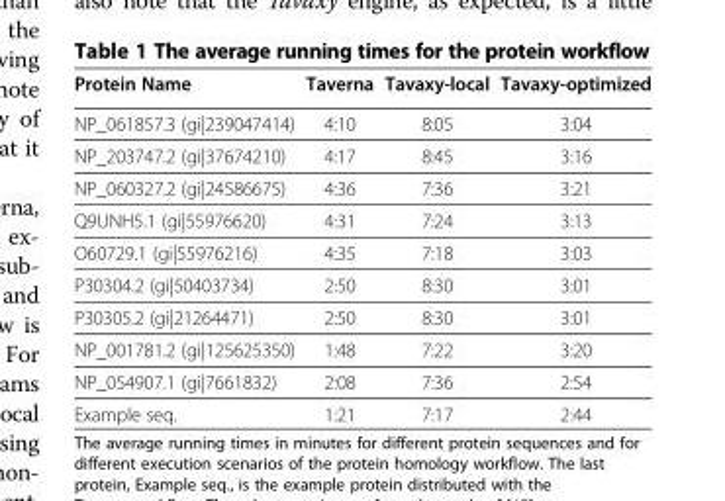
<table><thead><tr><td>Protein Name</td><td>Taverna</td><td>Tavaxy-local</td><td>Tavaxy-optimized</td></tr></thead><tbody><tr><td>NP_061857.3 (gi|239047414)</td><td>4:10</td><td>8:05</td><td>3:04</td></tr><tr><td>NP_203747.2 (gi|37674210)</td><td>4:17</td><td>8:45</td><td>3:16</td></tr><tr><td>NP_060327.2 (gi|24586675)</td><td>4:36</td><td>7:36</td><td>3:21</td></tr><tr><td>Q9UNH5.1 (gi|55976620)</td><td>4:31</td><td>7:24</td><td>3:13</td></tr><tr><td>O60729.1 (gi|55976216)</td><td>4:35</td><td>7:18</td><td>3:03</td></tr><tr><td>P30304.2 (gi|50403734)</td><td>2:50</td><td>8:30</td><td>3:01</td></tr><tr><td>P30305.2 (gi|21264471)</td><td>2:50</td><td>8:30</td><td>3:01</td></tr><tr><td>NP_001781.2 (gi|125625350)</td><td>1:48</td><td>7:22</td><td>3:20</td></tr><tr><td>NP_054907.1 (gi|7661832)</td><td>2:08</td><td>7:36</td><td>2:54</td></tr><tr><td>Example seq.</td><td>1:21</td><td>7:17</td><td>2:44</td></tr></tbody></table>